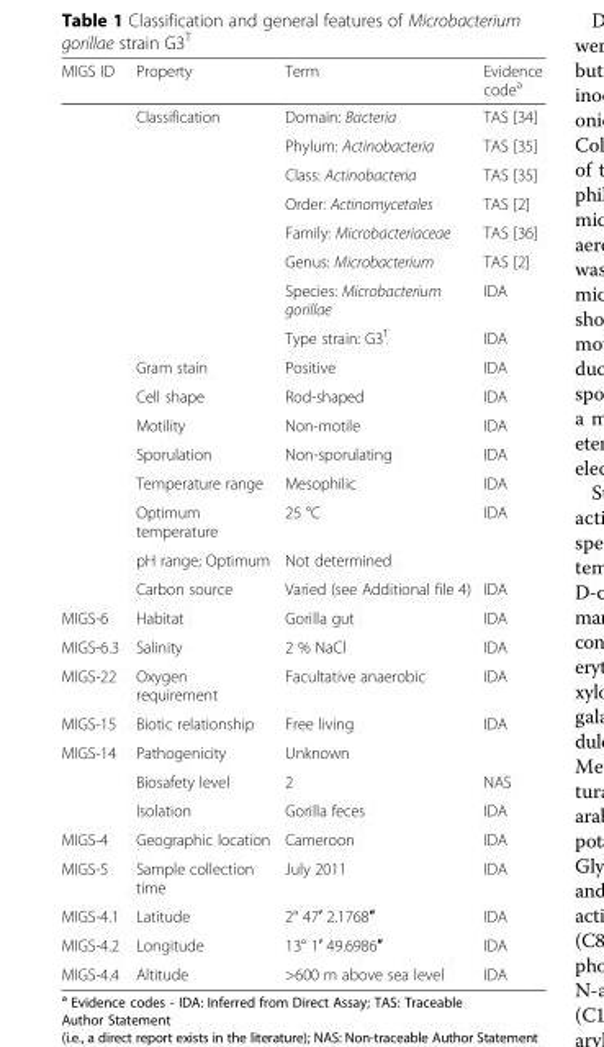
<table><thead><tr><td>MIGS ID</td><td>Property</td><td>Term</td><td>Evidence code<sup>a</sup></td></tr></thead><tbody><tr><td rowspan="8"></td><td rowspan="8">Classification</td><td>Domain: Bacteria</td><td>TAS [34]</td></tr><tr><td>Phylum: Actinobacteria</td><td>TAS [35]</td></tr><tr><td>Class: Actinobacteria</td><td>TAS [35]</td></tr><tr><td>Order: Actinomycetales</td><td>TAS [2]</td></tr><tr><td>Family: Microbacteriaceae</td><td>TAS [36]</td></tr><tr><td>Genus: Microbacterium</td><td>TAS [2]</td></tr><tr><td>Species: Microbacterium gorillae</td><td>IDA</td></tr><tr><td>Type strain: G3<sup>T</sup></td><td>IDA</td></tr><tr><td></td><td>Gram stain</td><td>Positive</td><td>IDA</td></tr><tr><td></td><td>Cell shape</td><td>Rod-shaped</td><td>IDA</td></tr><tr><td></td><td>Motility</td><td>Non-motile</td><td>IDA</td></tr><tr><td></td><td>Sporulation</td><td>Non-sporulating</td><td>IDA</td></tr><tr><td></td><td>Temperature range</td><td>Mesophilic</td><td>IDA</td></tr><tr><td></td><td>Optimum temperature</td><td>25 °C</td><td>IDA</td></tr><tr><td></td><td>pH range; Optimum</td><td>Not determined</td><td></td></tr><tr><td></td><td>Carbon source</td><td>Varied (see Additional file 4)</td><td>IDA</td></tr><tr><td>MIGS-6</td><td>Habitat</td><td>Gorilla gut</td><td>IDA</td></tr><tr><td>MIGS-6.3</td><td>Salinity</td><td>2 % NaCl</td><td>IDA</td></tr><tr><td>MIGS-22</td><td>Oxygen requirement</td><td>Facultative anaerobic</td><td>IDA</td></tr><tr><td>MIGS-15</td><td>Biotic relationship</td><td>Free living</td><td>IDA</td></tr><tr><td rowspan="3">MIGS-14</td><td>Pathogenicity</td><td>Unknown</td><td></td></tr><tr><td>Biosafety level</td><td>2</td><td>NAS</td></tr><tr><td>Isolation</td><td>Gorilla feces</td><td>IDA</td></tr><tr><td>MIGS-4</td><td>Geographic location</td><td>Cameroon</td><td>IDA</td></tr><tr><td>MIGS-5</td><td>Sample collection time</td><td>July 2011</td><td>IDA</td></tr><tr><td>MIGS-4.1</td><td>Latitude</td><td>2° 47′ 2.1768″</td><td>IDA</td></tr><tr><td>MIGS-4.2</td><td>Longitude</td><td>13° 1′ 49.6986″</td><td>IDA</td></tr><tr><td>MIGS-4.4</td><td>Altitude</td><td>&gt;600 m above sea level</td><td>IDA</td></tr></tbody></table>